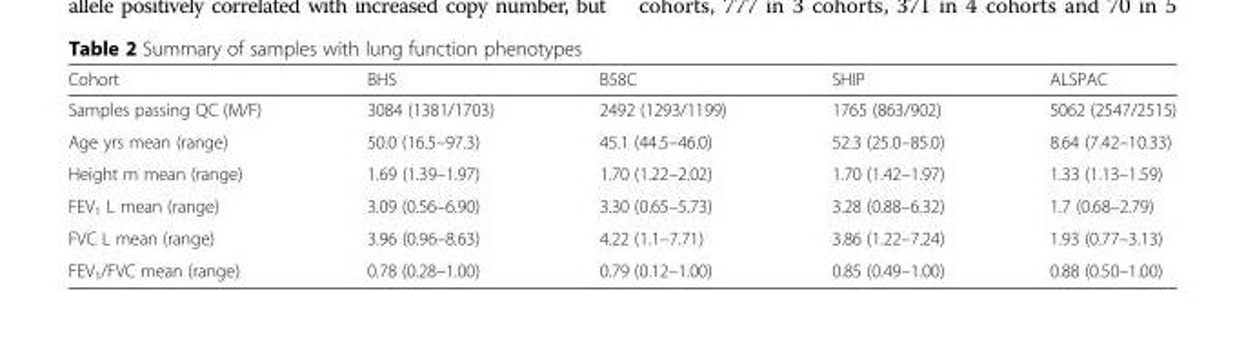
<table><thead><tr><td>Cohort</td><td>BHS</td><td>B58C</td><td>SHIP</td><td>ALSPAC</td></tr></thead><tbody><tr><td>Samples passing QC (M/F)</td><td>3084 (1381/1703)</td><td>2492 (1293/1199)</td><td>1765 (863/902)</td><td>5062 (2547/2515)</td></tr><tr><td>Age yrs mean (range)</td><td>50.0 (16.5–97.3)</td><td>45.1 (44.5–46.0)</td><td>52.3 (25.0–85.0)</td><td>8.64 (7.42–10.33)</td></tr><tr><td>Height m mean (range)</td><td>1.69 (1.39–1.97)</td><td>1.70 (1.22–2.02)</td><td>1.70 (1.42–1.97)</td><td>1.33 (1.13–1.59)</td></tr><tr><td>FEV<sub>1</sub> L mean (range)</td><td>3.09 (0.56–6.90)</td><td>3.30 (0.65–5.73)</td><td>3.28 (0.88–6.32)</td><td>1.7 (0.68–2.79)</td></tr><tr><td>FVC L mean (range)</td><td>3.96 (0.96–8.63)</td><td>4.22 (1.1–7.71)</td><td>3.86 (1.22–7.24)</td><td>1.93 (0.77–3.13)</td></tr><tr><td>FEV<sub>1</sub>/FVC mean (range)</td><td>0.78 (0.28–1.00)</td><td>0.79 (0.12–1.00)</td><td>0.85 (0.49–1.00)</td><td>0.88 (0.50–1.00)</td></tr></tbody></table>